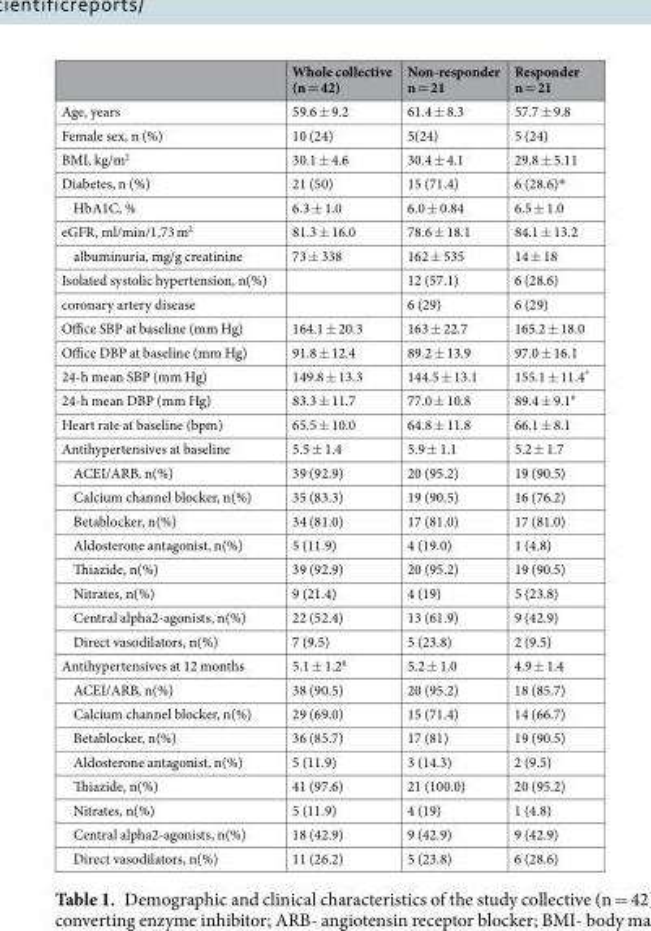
<table><thead><tr><td></td><td>Whole collective (n = 42)</td><td>Non-responder n = 21</td><td>Responder n = 21</td></tr></thead><tbody><tr><td>Age, years</td><td>59.6 ± 9.2</td><td>61.4 ± 8.3</td><td>57.7 ± 9.8</td></tr><tr><td>Female sex, n (%)</td><td>10 (24)</td><td>5(24)</td><td>5 (24)</td></tr><tr><td>BMI, kg/m<sup>2</sup></td><td>30.1 ± 4.6</td><td>30.4 ± 4.1</td><td>29.8 ± 5.11</td></tr><tr><td>Diabetes, n (%)</td><td>21 (50)</td><td>15 (71.4)</td><td>6 (28.6)*</td></tr><tr><td>HbA1C, %</td><td>6.3 ± 1.0</td><td>6.0 ± 0.84</td><td>6.5 ± 1.0</td></tr><tr><td>eGFR, ml/min/1,73 m<sup>2</sup></td><td>81.3 ± 16.0</td><td>78.6 ± 18.1</td><td>84.1 ± 13.2</td></tr><tr><td>albuminuria, mg/g creatinine</td><td>73 ± 338</td><td>162 ± 535</td><td>14 ± 18</td></tr><tr><td>Isolated systolic hypertension, n(%)</td><td></td><td>12 (57.1)</td><td>6 (28.6)</td></tr><tr><td>coronary artery disease</td><td></td><td>6 (29)</td><td>6 (29)</td></tr><tr><td>Office SBP at baseline (mm Hg)</td><td>164.1 ± 20.3</td><td>163 ± 22.7</td><td>165.2 ± 18.0</td></tr><tr><td>Office DBP at baseline (mm Hg)</td><td>91.8 ± 12.4</td><td>89.2 ± 13.9</td><td>97.0 ± 16.1</td></tr><tr><td>24-h mean SBP (mm Hg)</td><td>149.8 ± 13.3</td><td>144.5 ± 13.1</td><td>155.1 ± 11.4*</td></tr><tr><td>24-h mean DBP (mm Hg)</td><td>83.3 ± 11.7</td><td>77.0 ± 10.8</td><td>89.4 ± 9.1<sup>#</sup></td></tr><tr><td>Heart rate at baseline (bpm)</td><td>65.5 ± 10.0</td><td>64.8 ± 11.8</td><td>66.1 ± 8.1</td></tr><tr><td>Antihypertensives at baseline</td><td>5.5 ± 1.4</td><td>5.9 ± 1.1</td><td>5.2 ± 1.7</td></tr><tr><td>ACEI/ARB, n(%)</td><td>39 (92.9)</td><td>20 (95.2)</td><td>19 (90.5)</td></tr><tr><td>Calcium channel blocker, n(%)</td><td>35 (83.3)</td><td>19 (90.5)</td><td>16 (76.2)</td></tr><tr><td>Betablocker, n(%)</td><td>34 (81.0)</td><td>17 (81.0)</td><td>17 (81.0)</td></tr><tr><td>Aldosterone antagonist, n(%)</td><td>5 (11.9)</td><td>4 (19.0)</td><td>1 (4.8)</td></tr><tr><td>Thiazide, n(%)</td><td>39 (92.9)</td><td>20 (95.2)</td><td>19 (90.5)</td></tr><tr><td>Nitrates, n(%)</td><td>9 (21.4)</td><td>4 (19)</td><td>5 (23.8)</td></tr><tr><td>Central alpha2-agonists, n(%)</td><td>22 (52.4)</td><td>13 (61.9)</td><td>9 (42.9)</td></tr><tr><td>Direct vasodilators, n(%)</td><td>7 (9.5)</td><td>5 (23.8)</td><td>2 (9.5)</td></tr><tr><td>Antihypertensives at 12 months</td><td>5.1 ± 1.2<sup>§</sup></td><td>5.2 ± 1.0</td><td>4.9 ± 1.4</td></tr><tr><td>ACEI/ARB, n(%)</td><td>38 (90.5)</td><td>20 (95.2)</td><td>18 (85.7)</td></tr><tr><td>Calcium channel blocker, n(%)</td><td>29 (69.0)</td><td>15 (71.4)</td><td>14 (66.7)</td></tr><tr><td>Betablocker, n(%)</td><td>36 (85.7)</td><td>17 (81)</td><td>19 (90.5)</td></tr><tr><td>Aldosterone antagonist, n(%)</td><td>5 (11.9)</td><td>3 (14.3)</td><td>2 (9.5)</td></tr><tr><td>Thiazide, n(%)</td><td>41 (97.6)</td><td>21 (100.0)</td><td>20 (95.2)</td></tr><tr><td>Nitrates, n(%)</td><td>5 (11.9)</td><td>4 (19)</td><td>1 (4.8)</td></tr><tr><td>Central alpha2-agonists, n(%)</td><td>18 (42.9)</td><td>9 (42.9)</td><td>9 (42.9)</td></tr><tr><td>Direct vasodilators, n(%)</td><td>11 (26.2)</td><td>5 (23.8)</td><td>6 (28.6)</td></tr></tbody></table>